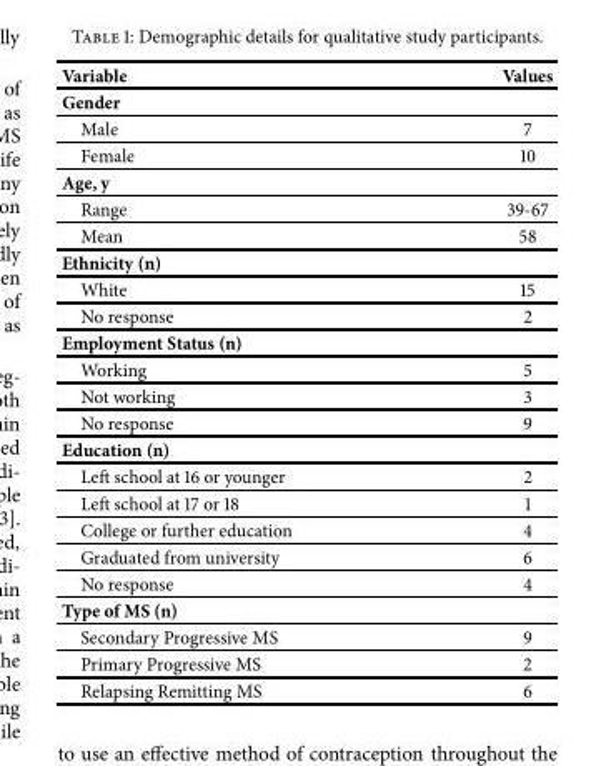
<table><tbody><tr><td>Variable</td><td>Values</td></tr><tr><td colspan="2">Gender</td></tr><tr><td>Male</td><td>7</td></tr><tr><td>Female</td><td>10</td></tr><tr><td colspan="2">Age, y</td></tr><tr><td>Range</td><td>39-67</td></tr><tr><td>Mean</td><td>58</td></tr><tr><td colspan="2">Ethnicity (n)</td></tr><tr><td>White</td><td>15</td></tr><tr><td>No response</td><td>2</td></tr><tr><td colspan="2">Employment Status (n)</td></tr><tr><td>Working</td><td>5</td></tr><tr><td>Not working</td><td>3</td></tr><tr><td>No response</td><td>9</td></tr><tr><td colspan="2">Education (n)</td></tr><tr><td>Left school at 16 or younger</td><td>2</td></tr><tr><td>Left school at 17 or 18</td><td>1</td></tr><tr><td>College or further education</td><td>4</td></tr><tr><td>Graduated from university</td><td>6</td></tr><tr><td>No response</td><td>4</td></tr><tr><td colspan="2">Type of MS (n)</td></tr><tr><td>Secondary Progressive MS</td><td>9</td></tr><tr><td>Primary Progressive MS</td><td>2</td></tr><tr><td>Relapsing Remitting MS</td><td>6</td></tr></tbody></table>